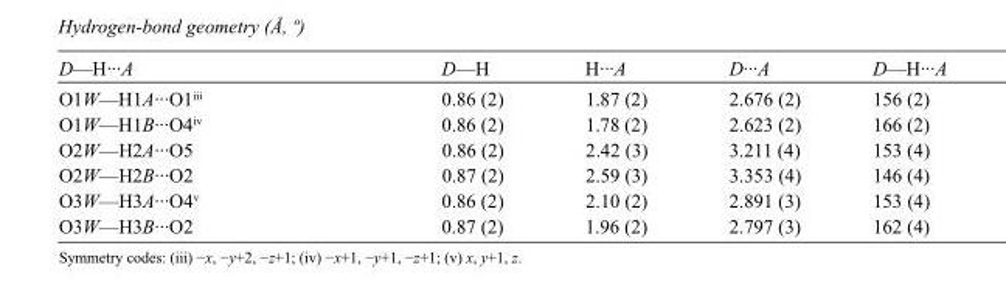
<table><tbody><tr><td>D—H···A</td><td>D—H</td><td>H···A</td><td>D···A</td><td>D—H···A</td></tr><tr><td>O1W—H1A···O1<sup>iii</sup></td><td>0.86 (2)</td><td>1.87 (2)</td><td>2.676 (2)</td><td>156 (2)</td></tr><tr><td>O1W—H1B···O4<sup>iv</sup></td><td>0.86 (2)</td><td>1.78 (2)</td><td>2.623 (2)</td><td>166 (2)</td></tr><tr><td>O2W—H2A···O5</td><td>0.86 (2)</td><td>2.42 (3)</td><td>3.211 (4)</td><td>153 (4)</td></tr><tr><td>O2W—H2B···O2</td><td>0.87 (2)</td><td>2.59 (3)</td><td>3.353 (4)</td><td>146 (4)</td></tr><tr><td>O3W—H3A···O4<sup>v</sup></td><td>0.86 (2)</td><td>2.10 (2)</td><td>2.891 (3)</td><td>153 (4)</td></tr><tr><td>O3W—H3B···O2</td><td>0.87 (2)</td><td>1.96 (2)</td><td>2.797 (3)</td><td>162 (4)</td></tr></tbody></table>